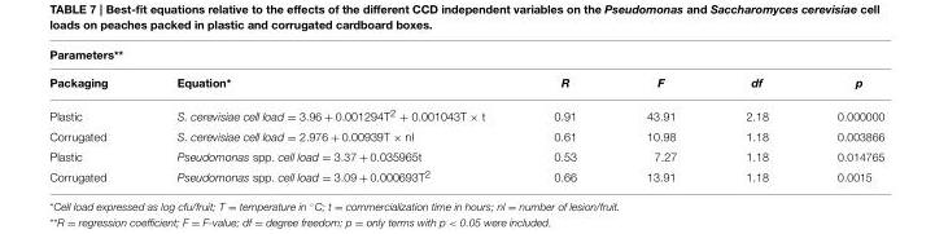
<table><thead><tr><td colspan="6">Parameters**</td></tr><tr><td>Packaging</td><td>Equation*</td><td>R</td><td>F</td><td>df</td><td>p</td></tr></thead><tbody><tr><td>Plastic</td><td>S. cerevisiae cell load = 3.96 + 0.001294T<sup>2</sup> + 0.001043T × t</td><td>0.91</td><td>43.91</td><td>2.18</td><td>0.000000</td></tr><tr><td>Corrugated</td><td>S. cerevisiae cell load = 2.976 + 0.00939T × nl</td><td>0.61</td><td>10.98</td><td>1.18</td><td>0.003866</td></tr><tr><td>Plastic</td><td>Pseudomonas spp. cell load = 3.37 + 0.035965t</td><td>0.53</td><td>7.27</td><td>1.18</td><td>0.014765</td></tr><tr><td>Corrugated</td><td>Pseudomonas spp. cell load = 3.09 + 0.000693T<sup>2</sup></td><td>0.66</td><td>13.91</td><td>1.18</td><td>0.0015</td></tr></tbody></table>